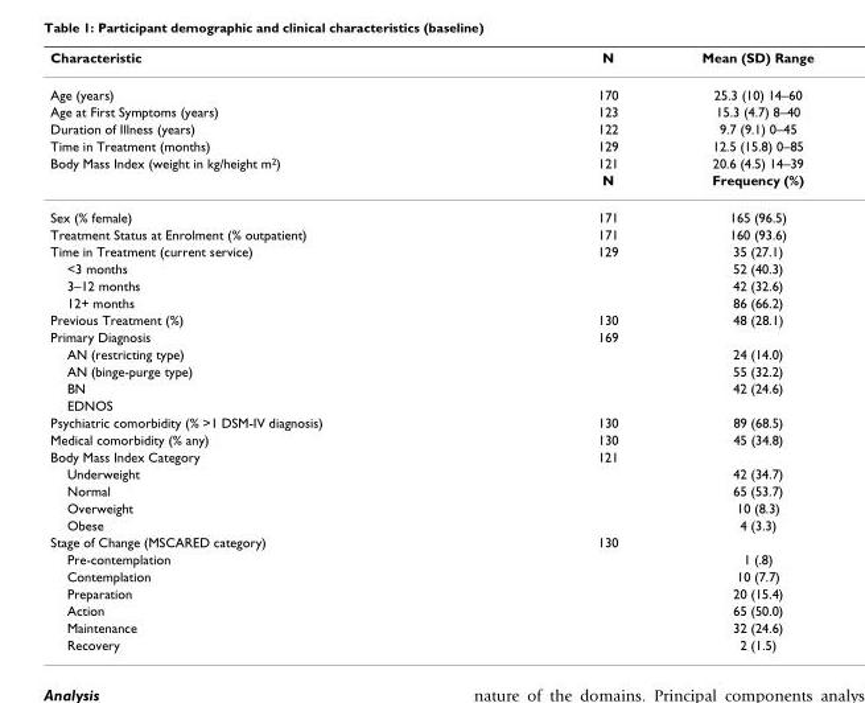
<table><thead><tr><td>Characteristic</td><td>N</td><td>Mean (SD) Range</td></tr></thead><tbody><tr><td>Age (years)</td><td>170</td><td>25.3 (10) 14–60</td></tr><tr><td>Age at First Symptoms (years)</td><td>123</td><td>15.3 (4.7) 8–40</td></tr><tr><td>Duration of Illness (years)</td><td>122</td><td>9.7 (9.1) 0–45</td></tr><tr><td>Time in Treatment (months)</td><td>129</td><td>12.5 (15.8) 0–85</td></tr><tr><td rowspan="2">Body Mass Index (weight in kg/height m<sup>2</sup>)</td><td>121</td><td>20.6 (4.5) 14–39</td></tr><tr><td>N</td><td>Frequency (%)</td></tr><tr><td>Sex (% female)</td><td>171</td><td>165 (96.5)</td></tr><tr><td>Treatment Status at Enrolment (% outpatient)</td><td>171</td><td>160 (93.6)</td></tr><tr><td>Time in Treatment (current service)</td><td>129</td><td>35 (27.1)</td></tr><tr><td>&lt;3 months</td><td></td><td>52 (40.3)</td></tr><tr><td>3–12 months</td><td></td><td>42 (32.6)</td></tr><tr><td>12+ months</td><td></td><td>86 (66.2)</td></tr><tr><td>Previous Treatment (%)</td><td>130</td><td>48 (28.1)</td></tr><tr><td>Primary Diagnosis</td><td>169</td><td></td></tr><tr><td>AN (restricting type)</td><td></td><td>24 (14.0)</td></tr><tr><td>AN (binge-purge type)</td><td></td><td>55 (32.2)</td></tr><tr><td>BN</td><td></td><td>42 (24.6)</td></tr><tr><td colspan="3">EDNOS</td></tr><tr><td>Psychiatric comorbidity (% &gt;1 DSM-IV diagnosis)</td><td>130</td><td>89 (68.5)</td></tr><tr><td>Medical comorbidity (% any)</td><td>130</td><td>45 (34.8)</td></tr><tr><td>Body Mass Index Category</td><td>121</td><td></td></tr><tr><td>Underweight</td><td></td><td>42 (34.7)</td></tr><tr><td>Normal</td><td></td><td>65 (53.7)</td></tr><tr><td>Overweight</td><td></td><td>10 (8.3)</td></tr><tr><td>Obese</td><td></td><td>4 (3.3)</td></tr><tr><td>Stage of Change (MSCARED category)</td><td>130</td><td></td></tr><tr><td>Pre-contemplation</td><td></td><td>1 (.8)</td></tr><tr><td>Contemplation</td><td></td><td>10 (7.7)</td></tr><tr><td>Preparation</td><td></td><td>20 (15.4)</td></tr><tr><td>Action</td><td></td><td>65 (50.0)</td></tr><tr><td>Maintenance</td><td></td><td>32 (24.6)</td></tr><tr><td>Recovery</td><td></td><td>2 (1.5)</td></tr></tbody></table>